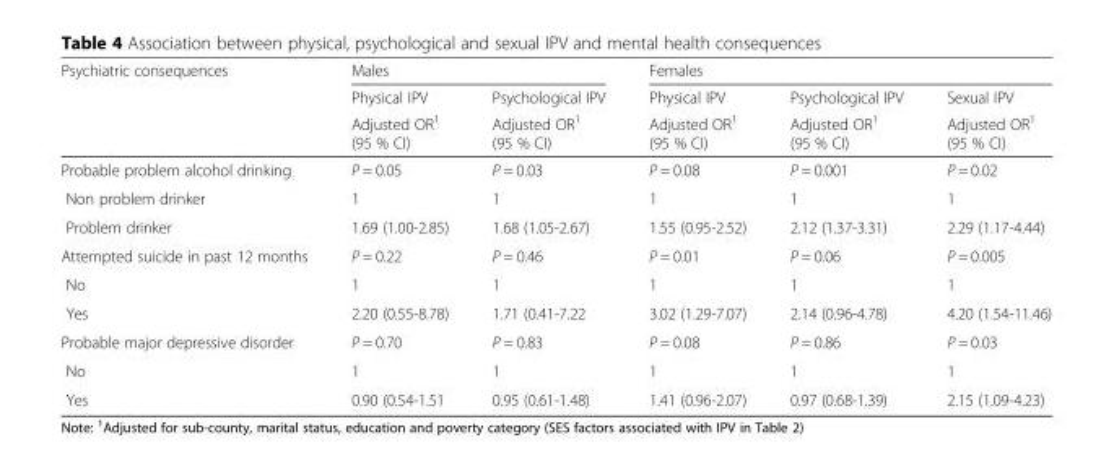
<table><thead><tr><td rowspan="3">Psychiatric consequences</td><td colspan="2">Males</td><td colspan="3">Females</td></tr><tr><td rowspan="2">Physical IPV Adjusted OR<sup>1</sup> (95 % CI)</td><td rowspan="2">Psychological IPV Adjusted OR<sup>1</sup> (95 % CI)</td><td rowspan="2">Physical IPV Adjusted OR<sup>1</sup> (95 % CI)</td><td rowspan="2">Psychological IPV Adjusted OR<sup>1</sup> (95 % CI)</td><td rowspan="2">Sexual IPV Adjusted OR<sup>1</sup> (95 % CI)</td></tr><tr></tr></thead><tbody><tr><td>Probable problem alcohol drinking</td><td>P = 0.05</td><td>P = 0.03</td><td>P = 0.08</td><td>P = 0.001</td><td>P = 0.02</td></tr><tr><td>Non problem drinker</td><td>1</td><td>1</td><td>1</td><td>1</td><td>1</td></tr><tr><td>Problem drinker</td><td>1.69 (1.00-2.85)</td><td>1.68 (1.05-2.67)</td><td>1.55 (0.95-2.52)</td><td>2.12 (1.37-3.31)</td><td>2.29 (1.17-4.44)</td></tr><tr><td>Attempted suicide in past 12 months</td><td>P = 0.22</td><td>P = 0.46</td><td>P = 0.01</td><td>P = 0.06</td><td>P = 0.005</td></tr><tr><td>No</td><td>1</td><td>1</td><td>1</td><td>1</td><td>1</td></tr><tr><td>Yes</td><td>2.20 (0.55-8.78)</td><td>1.71 (0.41-7.22</td><td>3.02 (1.29-7.07)</td><td>2.14 (0.96-4.78)</td><td>4.20 (1.54-11.46)</td></tr><tr><td>Probable major depressive disorder</td><td>P = 0.70</td><td>P = 0.83</td><td>P = 0.08</td><td>P = 0.86</td><td>P = 0.03</td></tr><tr><td>No</td><td>1</td><td>1</td><td>1</td><td>1</td><td>1</td></tr><tr><td>Yes</td><td>0.90 (0.54-1.51</td><td>0.95 (0.61-1.48)</td><td>1.41 (0.96-2.07)</td><td>0.97 (0.68-1.39)</td><td>2.15 (1.09-4.23)</td></tr></tbody></table>